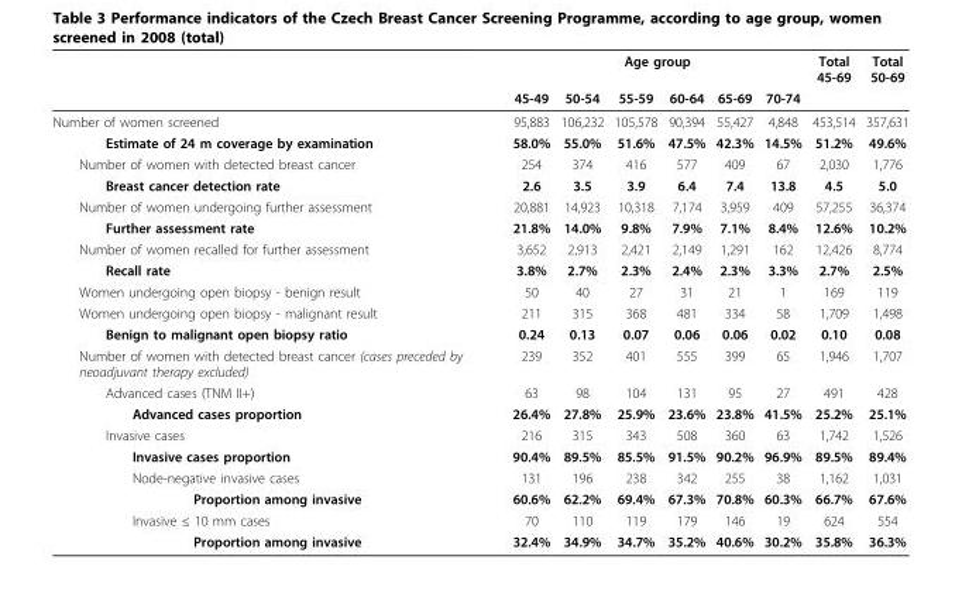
<table><thead><tr><td rowspan="2"></td><td colspan="6">Age group</td><td rowspan="2">Total 45-69</td><td rowspan="2">Total 50-69</td></tr><tr><td>45-49</td><td>50-54</td><td>55-59</td><td>60-64</td><td>65-69</td><td>70-74</td></tr></thead><tbody><tr><td>Number of women screened</td><td>95,883</td><td>106,232</td><td>105,578</td><td>90,394</td><td>55,427</td><td>4,848</td><td>453,514</td><td>357,631</td></tr><tr><td>Estimate of 24 m coverage by examination</td><td>58.0%</td><td>55.0%</td><td>51.6%</td><td>47.5%</td><td>42.3%</td><td>14.5%</td><td>51.2%</td><td>49.6%</td></tr><tr><td>Number of women with detected breast cancer</td><td>254</td><td>374</td><td>416</td><td>577</td><td>409</td><td>67</td><td>2,030</td><td>1,776</td></tr><tr><td>Breast cancer detection rate</td><td>2.6</td><td>3.5</td><td>3.9</td><td>6.4</td><td>7.4</td><td>13.8</td><td>4.5</td><td>5.0</td></tr><tr><td>Number of women undergoing further assessment</td><td>20,881</td><td>14,923</td><td>10,318</td><td>7,174</td><td>3,959</td><td>409</td><td>57,255</td><td>36,374</td></tr><tr><td>Further assessment rate</td><td>21.8%</td><td>14.0%</td><td>9.8%</td><td>7.9%</td><td>7.1%</td><td>8.4%</td><td>12.6%</td><td>10.2%</td></tr><tr><td>Number of women recalled for further assessment</td><td>3,652</td><td>2,913</td><td>2,421</td><td>2,149</td><td>1,291</td><td>162</td><td>12,426</td><td>8,774</td></tr><tr><td>Recall rate</td><td>3.8%</td><td>2.7%</td><td>2.3%</td><td>2.4%</td><td>2.3%</td><td>3.3%</td><td>2.7%</td><td>2.5%</td></tr><tr><td>Women undergoing open biopsy - benign result</td><td>50</td><td>40</td><td>27</td><td>31</td><td>21</td><td>1</td><td>169</td><td>119</td></tr><tr><td>Women undergoing open biopsy - malignant result</td><td>211</td><td>315</td><td>368</td><td>481</td><td>334</td><td>58</td><td>1,709</td><td>1,498</td></tr><tr><td>Benign to malignant open biopsy ratio</td><td>0.24</td><td>0.13</td><td>0.07</td><td>0.06</td><td>0.06</td><td>0.02</td><td>0.10</td><td>0.08</td></tr><tr><td>Number of women with detected breast cancer (cases preceded by neoadjuvant therapy excluded)</td><td>239</td><td>352</td><td>401</td><td>555</td><td>399</td><td>65</td><td>1,946</td><td>1,707</td></tr><tr><td>Advanced cases (TNM II+)</td><td>63</td><td>98</td><td>104</td><td>131</td><td>95</td><td>27</td><td>491</td><td>428</td></tr><tr><td>Advanced cases proportion</td><td>26.4%</td><td>27.8%</td><td>25.9%</td><td>23.6%</td><td>23.8%</td><td>41.5%</td><td>25.2%</td><td>25.1%</td></tr><tr><td>Invasive cases</td><td>216</td><td>315</td><td>343</td><td>508</td><td>360</td><td>63</td><td>1,742</td><td>1,526</td></tr><tr><td>Invasive cases proportion</td><td>90.4%</td><td>89.5%</td><td>85.5%</td><td>91.5%</td><td>90.2%</td><td>96.9%</td><td>89.5%</td><td>89.4%</td></tr><tr><td>Node-negative invasive cases</td><td>131</td><td>196</td><td>238</td><td>342</td><td>255</td><td>38</td><td>1,162</td><td>1,031</td></tr><tr><td>Proportion among invasive</td><td>60.6%</td><td>62.2%</td><td>69.4%</td><td>67.3%</td><td>70.8%</td><td>60.3%</td><td>66.7%</td><td>67.6%</td></tr><tr><td>Invasive ≤ 10 mm cases</td><td>70</td><td>110</td><td>119</td><td>179</td><td>146</td><td>19</td><td>624</td><td>554</td></tr><tr><td>Proportion among invasive</td><td>32.4%</td><td>34.9%</td><td>34.7%</td><td>35.2%</td><td>40.6%</td><td>30.2%</td><td>35.8%</td><td>36.3%</td></tr></tbody></table>